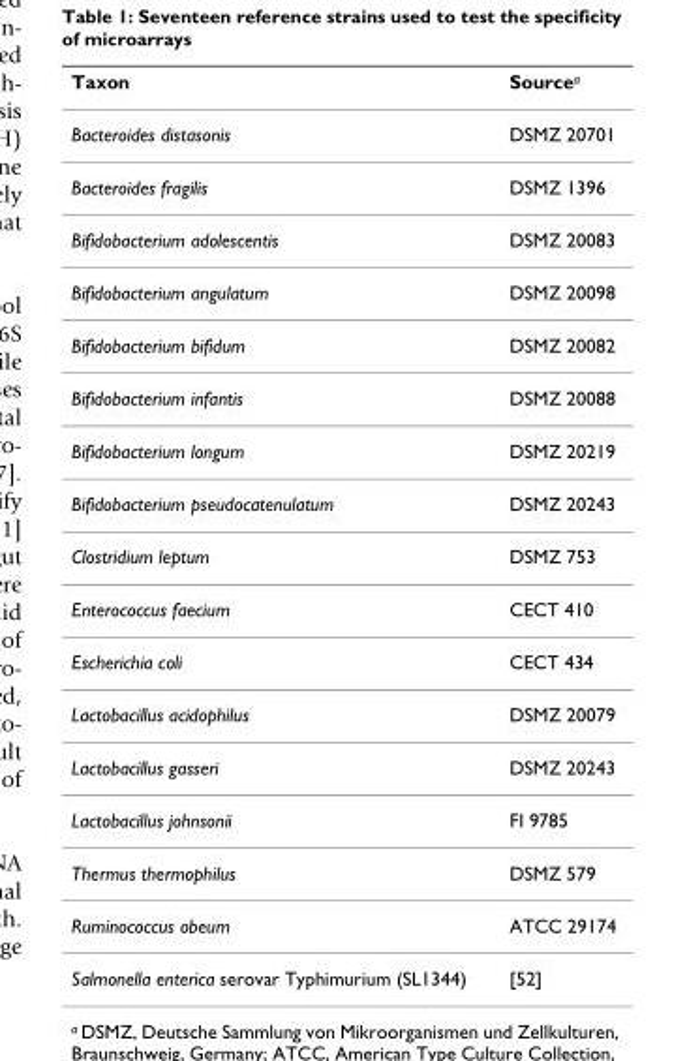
<table><thead><tr><td>Taxon</td><td>Source<sup>a</sup></td></tr></thead><tbody><tr><td>Bacteroides distasonis</td><td>DSMZ 20701</td></tr><tr><td>Bacteroides fragilis</td><td>DSMZ 1396</td></tr><tr><td>Bifidobacterium adolescentis</td><td>DSMZ 20083</td></tr><tr><td>Bifidobacterium angulatum</td><td>DSMZ 20098</td></tr><tr><td>Bifidobacterium bifidum</td><td>DSMZ 20082</td></tr><tr><td>Bifidobacterium infantis</td><td>DSMZ 20088</td></tr><tr><td>Bifidobacterium longum</td><td>DSMZ 20219</td></tr><tr><td>Bifidobacterium pseudocatenulatum</td><td>DSMZ 20243</td></tr><tr><td>Clostridium leptum</td><td>DSMZ 753</td></tr><tr><td>Enterococcus faecium</td><td>CECT 410</td></tr><tr><td>Escherichia coli</td><td>CECT 434</td></tr><tr><td>Lactobacillus acidophilus</td><td>DSMZ 20079</td></tr><tr><td>Lactobacillus gasseri</td><td>DSMZ 20243</td></tr><tr><td>Lactobacillus johnsonii</td><td>FI 9785</td></tr><tr><td>Thermus thermophilus</td><td>DSMZ 579</td></tr><tr><td>Ruminococcus obeum</td><td>ATCC 29174</td></tr><tr><td>Salmonella enterica serovar Typhimurium (SL1344)</td><td>[52]</td></tr></tbody></table>